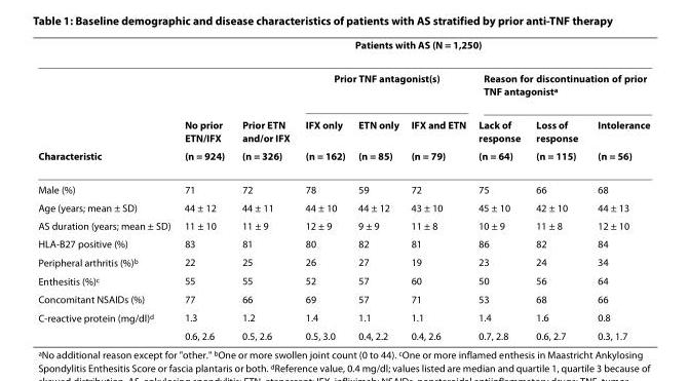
<table><thead><tr><td rowspan="3"></td><td colspan="8">Patients with AS (N = 1,250)</td></tr><tr><td rowspan="2">No prior ETN/IFX</td><td rowspan="2">Prior ETN and/or IFX</td><td colspan="3">Prior TNF antagonist(s)</td><td colspan="3">Reason for discontinuation of prior TNF antagonist<sup>a</sup></td></tr><tr><td>IFX only</td><td>ETN only</td><td>IFX and ETN</td><td>Lack of response</td><td>Loss of response</td><td>Intolerance</td></tr></thead><tbody><tr><td>Characteristic</td><td>(n = 924)</td><td>(n = 326)</td><td>(n = 162)</td><td>(n = 85)</td><td>(n = 79)</td><td>(n = 64)</td><td>(n = 115)</td><td>(n = 56)</td></tr><tr><td>Male (%)</td><td>71</td><td>72</td><td>78</td><td>59</td><td>72</td><td>75</td><td>66</td><td>68</td></tr><tr><td>Age (years; mean ± SD)</td><td>44 ± 12</td><td>44 ± 11</td><td>44 ± 10</td><td>44 ± 12</td><td>43 ± 10</td><td>45 ± 10</td><td>42 ± 10</td><td>44 ± 13</td></tr><tr><td>AS duration (years; mean ± SD)</td><td>11 ± 10</td><td>11 ± 9</td><td>12 ± 9</td><td>9 ± 9</td><td>11 ± 8</td><td>10 ± 9</td><td>11 ± 8</td><td>12 ± 10</td></tr><tr><td>HLA-B27 positive (%)</td><td>83</td><td>81</td><td>80</td><td>82</td><td>81</td><td>86</td><td>82</td><td>84</td></tr><tr><td>Peripheral arthritis (%)<sup>b</sup></td><td>22</td><td>25</td><td>26</td><td>27</td><td>19</td><td>23</td><td>24</td><td>34</td></tr><tr><td>Enthesitis (%)<sup>c</sup></td><td>55</td><td>55</td><td>52</td><td>57</td><td>60</td><td>50</td><td>56</td><td>64</td></tr><tr><td>Concomitant NSAIDs (%)</td><td>77</td><td>66</td><td>69</td><td>57</td><td>71</td><td>53</td><td>68</td><td>66</td></tr><tr><td rowspan="2">C-reactive protein (mg/dl)<sup>d</sup></td><td>1.3</td><td>1.2</td><td>1.4</td><td>1.1</td><td>1.1</td><td>1.4</td><td>1.6</td><td>0.8</td></tr><tr><td>0.6, 2.6</td><td>0.5, 2.6</td><td>0.5, 3.0</td><td>0.4, 2.2</td><td>0.4, 2.6</td><td>0.7, 2.8</td><td>0.6, 2.7</td><td>0.3, 1.7</td></tr></tbody></table>